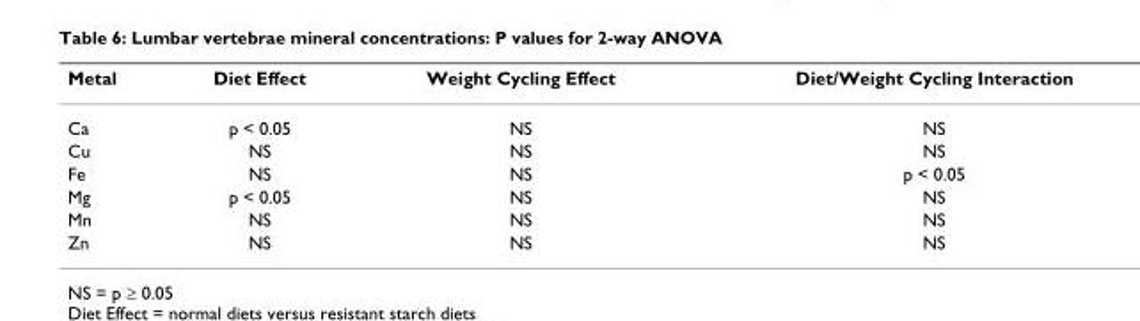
<table><thead><tr><td>Metal</td><td>Diet Effect</td><td>Weight Cycling Effect</td><td>Diet/Weight Cycling Interaction</td></tr></thead><tbody><tr><td>Ca</td><td>p &lt; 0.05</td><td>NS</td><td>NS</td></tr><tr><td>Cu</td><td>NS</td><td>NS</td><td>NS</td></tr><tr><td>Fe</td><td>NS</td><td>NS</td><td>p &lt; 0.05</td></tr><tr><td>Mg</td><td>p &lt; 0.05</td><td>NS</td><td>NS</td></tr><tr><td>Mn</td><td>NS</td><td>NS</td><td>NS</td></tr><tr><td>Zn</td><td>NS</td><td>NS</td><td>NS</td></tr></tbody></table>